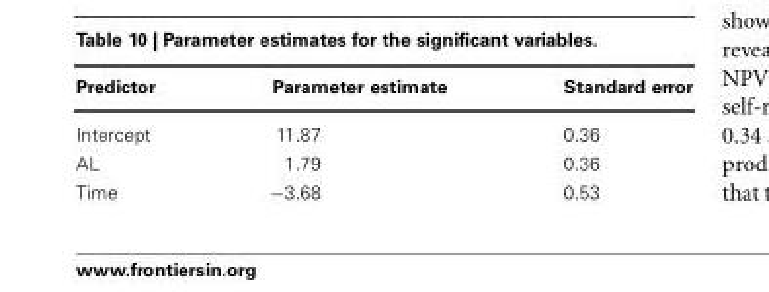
<table><thead><tr><td>Predictor</td><td>Parameter estimate</td><td>Standard error</td></tr></thead><tbody><tr><td>Intercept</td><td>11.87</td><td>0.36</td></tr><tr><td>AL</td><td>1.79</td><td>0.36</td></tr><tr><td>Time</td><td>−3.68</td><td>0.53</td></tr></tbody></table>